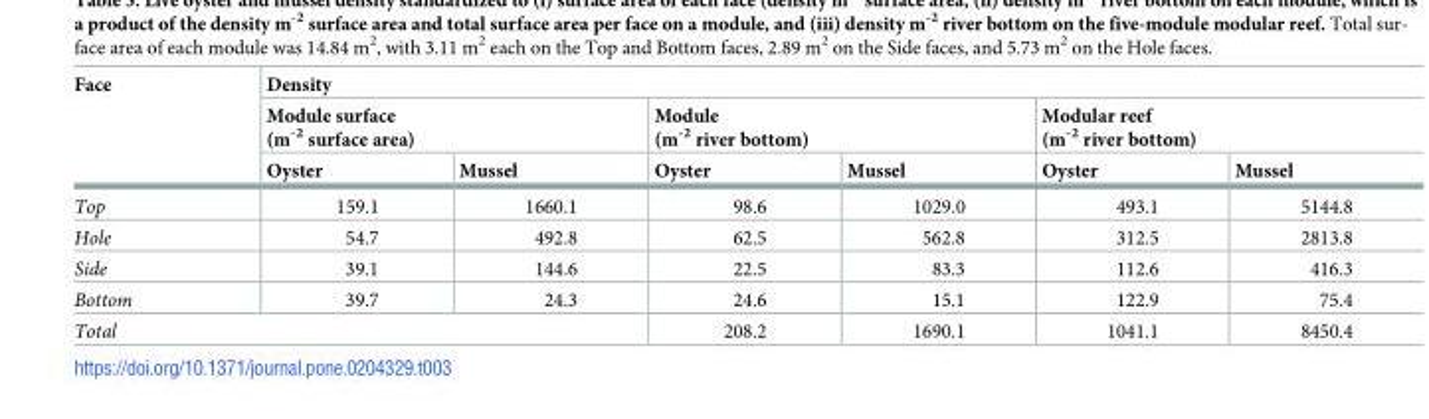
<table><thead><tr><td rowspan="3">Face</td><td colspan="6">Density</td></tr><tr><td colspan="2">Module surface (m<sup>-2</sup> surface area)</td><td colspan="2">Module (m<sup>-2</sup> river bottom)</td><td colspan="2">Modular reef (m<sup>-2</sup> river bottom)</td></tr><tr><td>Oyster</td><td>Mussel</td><td>Oyster</td><td>Mussel</td><td>Oyster</td><td>Mussel</td></tr></thead><tbody><tr><td>Top</td><td>159.1</td><td>1660.1</td><td>98.6</td><td>1029.0</td><td>493.1</td><td>5144.8</td></tr><tr><td>Hole</td><td>54.7</td><td>492.8</td><td>62.5</td><td>562.8</td><td>312.5</td><td>2813.8</td></tr><tr><td>Side</td><td>39.1</td><td>144.6</td><td>22.5</td><td>83.3</td><td>112.6</td><td>416.3</td></tr><tr><td>Bottom</td><td>39.7</td><td>24.3</td><td>24.6</td><td>15.1</td><td>122.9</td><td>75.4</td></tr><tr><td colspan="3">Total</td><td>208.2</td><td>1690.1</td><td>1041.1</td><td>8450.4</td></tr></tbody></table>